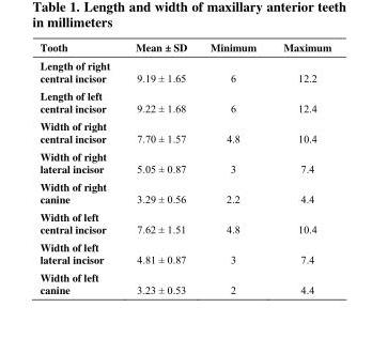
<table><tbody><tr><td>Tooth</td><td>Mean ± SD</td><td>Minimum</td><td>Maximum</td></tr><tr><td>Length of right central incisor</td><td>9.19 ± 1.65</td><td>6</td><td>12.2</td></tr><tr><td>Length of left central incisor</td><td>9.22 ± 1.68</td><td>6</td><td>12.4</td></tr><tr><td>Width of right central incisor</td><td>7.70 ± 1.57</td><td>4.8</td><td>10.4</td></tr><tr><td>Width of right lateral incisor</td><td>5.05 ± 0.87</td><td>3</td><td>7.4</td></tr><tr><td>Width of right canine</td><td>3.29 ± 0.56</td><td>2.2</td><td>4.4</td></tr><tr><td>Width of left central incisor</td><td>7.62 ± 1.51</td><td>4.8</td><td>10.4</td></tr><tr><td>Width of left lateral incisor</td><td>4.81 ± 0.87</td><td>3</td><td>7.4</td></tr><tr><td>Width of left canine</td><td>3.23 ± 0.53</td><td>2</td><td>4.4</td></tr></tbody></table>